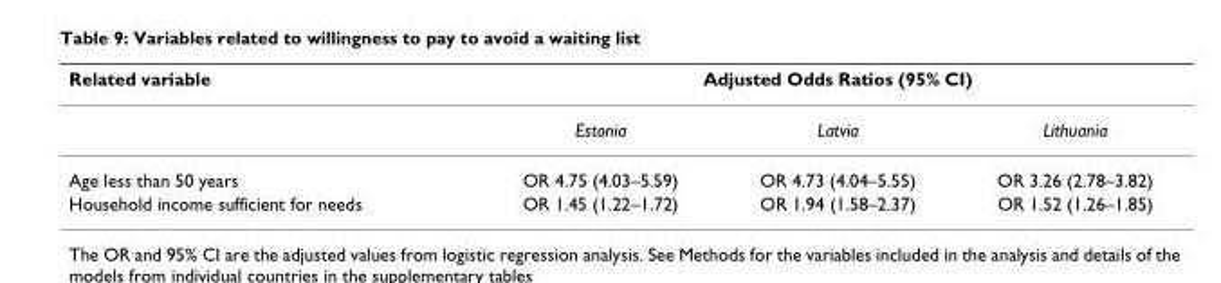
<table><thead><tr><td rowspan="2">Related variable</td><td colspan="3">Adjusted Odds Ratios (95% CI)</td></tr><tr><td>Estonia</td><td>Latvia</td><td>Lithuania</td></tr></thead><tbody><tr><td>Age less than 50 years</td><td>OR 4.75 (4.03–5.59)</td><td>OR 4.73 (4.04–5.55)</td><td>OR 3.26 (2.78–3.82)</td></tr><tr><td>Household income sufficient for needs</td><td>OR 1.45 (1.22–1.72)</td><td>OR 1.94 (1.58–2.37)</td><td>OR 1.52 (1.26–1.85)</td></tr></tbody></table>